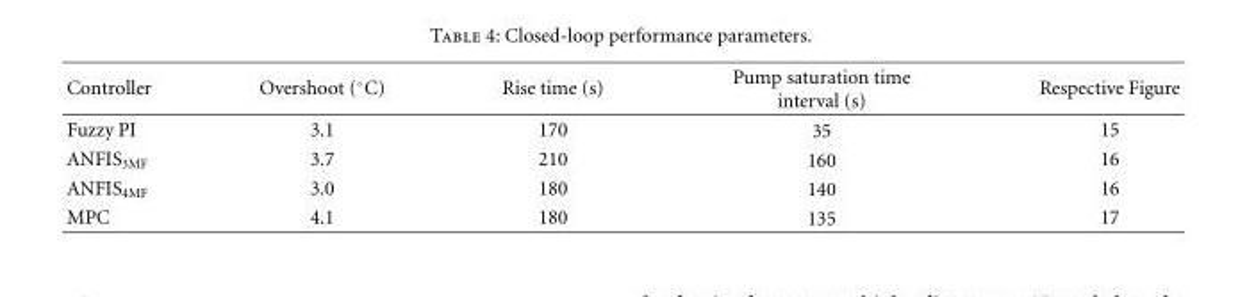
<table><thead><tr><td>Controller</td><td>Overshoot (◦C)</td><td>Rise time (s)</td><td>Pump saturation time interval (s)</td><td>Respective Figure</td></tr></thead><tbody><tr><td>Fuzzy PI</td><td>3.1</td><td>170</td><td>35</td><td>15</td></tr><tr><td>ANFIS<sub>3MF</sub></td><td>3.7</td><td>210</td><td>160</td><td>16</td></tr><tr><td>ANFIS<sub>4MF</sub></td><td>3.0</td><td>180</td><td>140</td><td>16</td></tr><tr><td>MPC</td><td>4.1</td><td>180</td><td>135</td><td>17</td></tr></tbody></table>